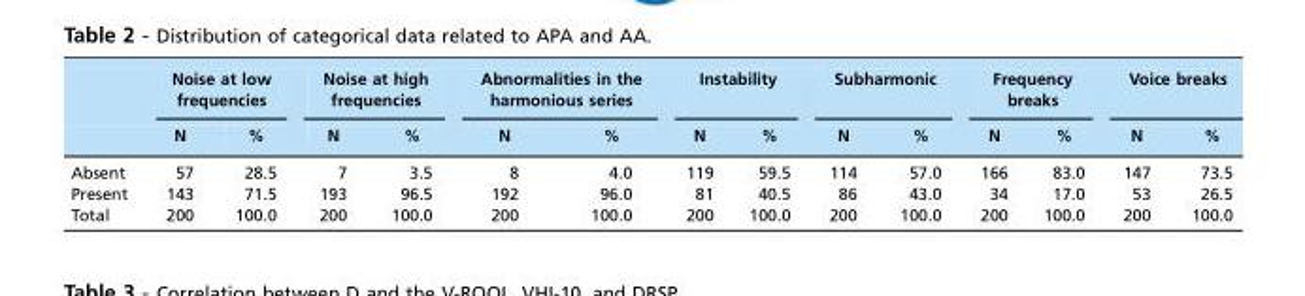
<table><thead><tr><td rowspan="2"></td><td colspan="2">Noise at low frequencies</td><td colspan="2">Noise at high frequencies</td><td colspan="2">Abnormalities in the harmonious series</td><td colspan="2">Instability</td><td colspan="2">Subharmonic</td><td colspan="2">Frequency breaks</td><td colspan="2">Voice breaks</td></tr><tr><td>N</td><td>%</td><td>N</td><td>%</td><td>N</td><td>%</td><td>N</td><td>%</td><td>N</td><td>%</td><td>N</td><td>%</td><td>N</td><td>%</td></tr></thead><tbody><tr><td>Absent</td><td>57</td><td>28.5</td><td>7</td><td>3.5</td><td>8</td><td>4.0</td><td>119</td><td>59.5</td><td>114</td><td>57.0</td><td>166</td><td>83.0</td><td>147</td><td>73.5</td></tr><tr><td>Present</td><td>143</td><td>71.5</td><td>193</td><td>96.5</td><td>192</td><td>96.0</td><td>81</td><td>40.5</td><td>86</td><td>43.0</td><td>34</td><td>17.0</td><td>53</td><td>26.5</td></tr><tr><td>Total</td><td>200</td><td>100.0</td><td>200</td><td>100.0</td><td>200</td><td>100.0</td><td>200</td><td>100.0</td><td>200</td><td>100.0</td><td>200</td><td>100.0</td><td>200</td><td>100.0</td></tr></tbody></table>